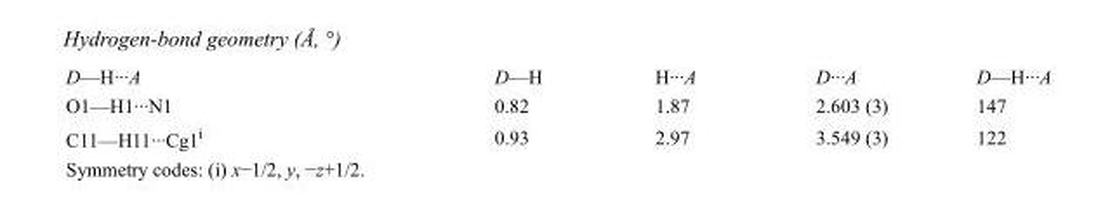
<table><tbody><tr><td>D—H···A</td><td>D—H</td><td>H···A</td><td>D···A</td><td>D—H···A</td></tr><tr><td>O1—H1···N1</td><td>0.82</td><td>1.87</td><td>2.603 (3)</td><td>147</td></tr><tr><td>C11—H11···Cg1<sup>i</sup></td><td>0.93</td><td>2.97</td><td>3.549 (3)</td><td>122</td></tr></tbody></table>